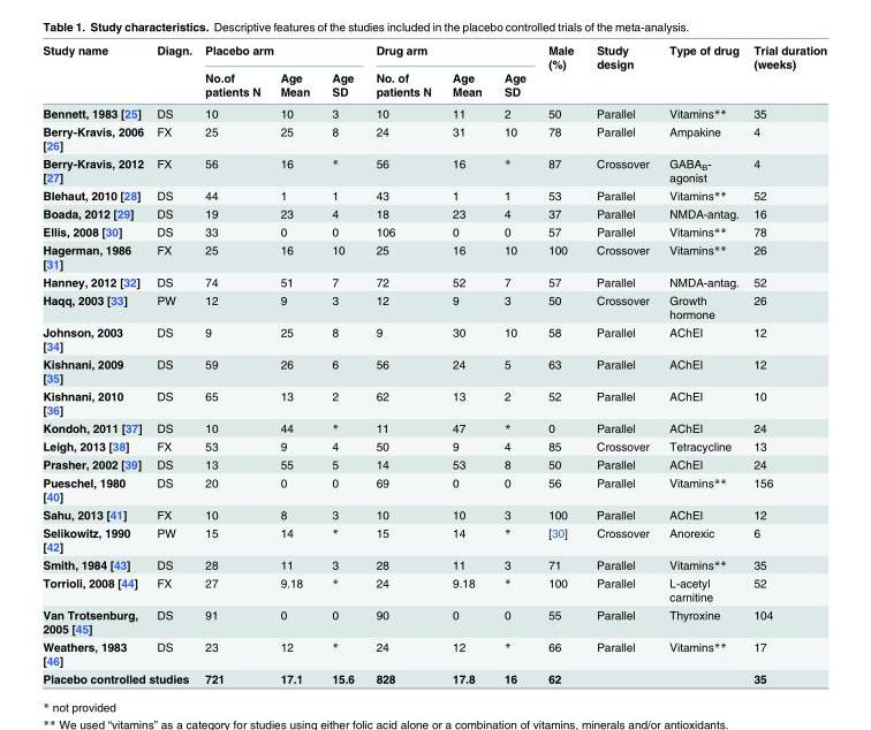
<table><thead><tr><td rowspan="2">Study name</td><td rowspan="2">Diagn.</td><td colspan="3">Placebo arm</td><td colspan="3">Drug arm</td><td rowspan="2">Male (%)</td><td rowspan="2">Study design</td><td rowspan="2">Type of drug</td><td rowspan="2">Trial duration (weeks)</td></tr><tr><td>No.of patients N</td><td>Age Mean</td><td>Age SD</td><td>No. of patients N</td><td>Age Mean</td><td>Age SD</td></tr></thead><tbody><tr><td>Bennett, 1983 [25]</td><td>DS</td><td>10</td><td>10</td><td>3</td><td>10</td><td>11</td><td>2</td><td>50</td><td>Parallel</td><td>Vitamins**</td><td>35</td></tr><tr><td>Berry-Kravis, 2006 [26]</td><td>FX</td><td>25</td><td>25</td><td>8</td><td>24</td><td>31</td><td>10</td><td>78</td><td>Parallel</td><td>Ampakine</td><td>4</td></tr><tr><td>Berry-Kravis, 2012 [27]</td><td>FX</td><td>56</td><td>16</td><td>*</td><td>56</td><td>16</td><td>*</td><td>87</td><td>Crossover</td><td>GABA<sub>B</sub>- agonist</td><td>4</td></tr><tr><td>Blehaut, 2010 [28]</td><td>DS</td><td>44</td><td>1</td><td>1</td><td>43</td><td>1</td><td>1</td><td>53</td><td>Parallel</td><td>Vitamins**</td><td>52</td></tr><tr><td>Boada, 2012 [29]</td><td>DS</td><td>19</td><td>23</td><td>4</td><td>18</td><td>23</td><td>4</td><td>37</td><td>Parallel</td><td>NMDA-antag.</td><td>16</td></tr><tr><td>Ellis, 2008 [30]</td><td>DS</td><td>33</td><td>0</td><td>0</td><td>106</td><td>0</td><td>0</td><td>57</td><td>Parallel</td><td>Vitamins**</td><td>78</td></tr><tr><td>Hagerman, 1986 [31]</td><td>FX</td><td>25</td><td>16</td><td>10</td><td>25</td><td>16</td><td>10</td><td>100</td><td>Crossover</td><td>Vitamins**</td><td>26</td></tr><tr><td>Hanney, 2012 [32]</td><td>DS</td><td>74</td><td>51</td><td>7</td><td>72</td><td>52</td><td>7</td><td>57</td><td>Parallel</td><td>NMDA-antag.</td><td>52</td></tr><tr><td>Haqq, 2003 [33]</td><td>PW</td><td>12</td><td>9</td><td>3</td><td>12</td><td>9</td><td>3</td><td>50</td><td>Crossover</td><td>Growth hormone</td><td>26</td></tr><tr><td>Johnson, 2003 [34]</td><td>DS</td><td>9</td><td>25</td><td>8</td><td>9</td><td>30</td><td>10</td><td>58</td><td>Parallel</td><td>AChEI</td><td>12</td></tr><tr><td>Kishnani, 2009 [35]</td><td>DS</td><td>59</td><td>26</td><td>6</td><td>56</td><td>24</td><td>5</td><td>63</td><td>Parallel</td><td>AChEI</td><td>12</td></tr><tr><td>Kishnani, 2010 [36]</td><td>DS</td><td>65</td><td>13</td><td>2</td><td>62</td><td>13</td><td>2</td><td>52</td><td>Parallel</td><td>AChEI</td><td>10</td></tr><tr><td>Kondoh, 2011 [37]</td><td>DS</td><td>10</td><td>44</td><td>*</td><td>11</td><td>47</td><td>*</td><td>0</td><td>Parallel</td><td>AChEI</td><td>24</td></tr><tr><td>Leigh, 2013 [38]</td><td>FX</td><td>53</td><td>9</td><td>4</td><td>50</td><td>9</td><td>4</td><td>85</td><td>Crossover</td><td>Tetracycline</td><td>13</td></tr><tr><td>Prasher, 2002 [39]</td><td>DS</td><td>13</td><td>55</td><td>5</td><td>14</td><td>53</td><td>8</td><td>50</td><td>Parallel</td><td>AChEI</td><td>24</td></tr><tr><td>Pueschel, 1980 [40]</td><td>DS</td><td>20</td><td>0</td><td>0</td><td>69</td><td>0</td><td>0</td><td>56</td><td>Parallel</td><td>Vitamins**</td><td>156</td></tr><tr><td>Sahu, 2013 [41]</td><td>FX</td><td>10</td><td>8</td><td>3</td><td>10</td><td>10</td><td>3</td><td>100</td><td>Parallel</td><td>AChEI</td><td>12</td></tr><tr><td>Selikowitz, 1990 [42]</td><td>PW</td><td>15</td><td>14</td><td>*</td><td>15</td><td>14</td><td>*</td><td>[30]</td><td>Crossover</td><td>Anorexic</td><td>6</td></tr><tr><td>Smith, 1984 [43]</td><td>DS</td><td>28</td><td>11</td><td>3</td><td>28</td><td>11</td><td>3</td><td>71</td><td>Parallel</td><td>Vitamins**</td><td>35</td></tr><tr><td>Torrioli, 2008 [44]</td><td>FX</td><td>27</td><td>9.18</td><td>*</td><td>24</td><td>9.18</td><td>*</td><td>100</td><td>Parallel</td><td>L-acetyl carnitine</td><td>52</td></tr><tr><td>Van Trotsenburg, 2005 [45]</td><td>DS</td><td>91</td><td>0</td><td>0</td><td>90</td><td>0</td><td>0</td><td>55</td><td>Parallel</td><td>Thyroxine</td><td>104</td></tr><tr><td>Weathers, 1983 [46]</td><td>DS</td><td>23</td><td>12</td><td>*</td><td>24</td><td>12</td><td>*</td><td>66</td><td>Parallel</td><td>Vitamins**</td><td>17</td></tr><tr><td colspan="2">Placebo controlled studies</td><td>721</td><td>17.1</td><td>15.6</td><td>828</td><td>17.8</td><td>16</td><td>62</td><td></td><td></td><td>35</td></tr></tbody></table>